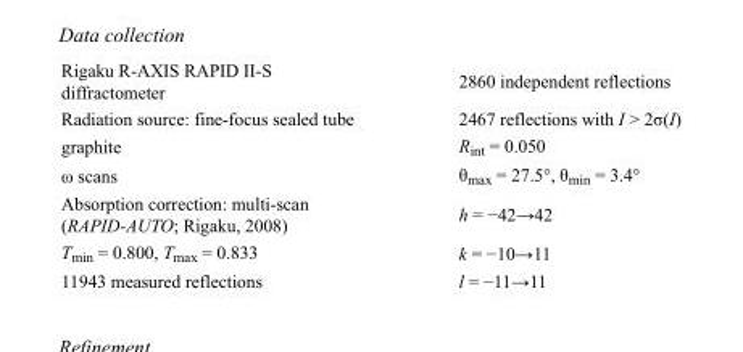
<table><tbody><tr><td>Rigaku R-AXIS RAPID II-S diffractometer</td><td>2860 independent reflections</td></tr><tr><td>Radiation source: fine-focus sealed tube</td><td>2467 reflections with I &gt; 2σ(I)</td></tr><tr><td>graphite</td><td>R<sub>int</sub> = 0.050</td></tr><tr><td>ω scans</td><td>θ<sub>max</sub> = 27.5°, θ<sub>min</sub> = 3.4°</td></tr><tr><td>Absorption correction: multi-scan (RAPID-AUTO; Rigaku, 2008)</td><td>h = −42→42</td></tr><tr><td>T<sub>min</sub> = 0.800, T<sub>max</sub> = 0.833</td><td>k = −10→11</td></tr><tr><td>11943 measured reflections</td><td>l = −11→11</td></tr></tbody></table>